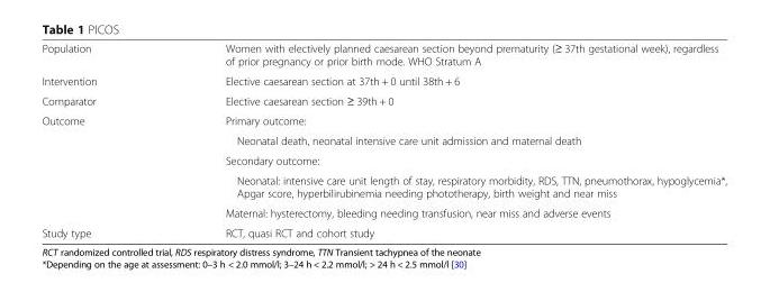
<table><tbody><tr><td>Population</td><td>Women with electively planned caesarean section beyond prematurity (≥ 37th gestational week), regardless of prior pregnancy or prior birth mode. WHO Stratum A</td></tr><tr><td>Intervention</td><td>Elective caesarean section at 37th + 0 until 38th + 6</td></tr><tr><td>Comparator</td><td>Elective caesarean section ≥ 39th + 0</td></tr><tr><td rowspan="5">Outcome</td><td>Primary outcome:</td></tr><tr><td>Neonatal death, neonatal intensive care unit admission and maternal death</td></tr><tr><td>Secondary outcome:</td></tr><tr><td>Neonatal: intensive care unit length of stay, respiratory morbidity, RDS, TTN, pneumothorax, hypoglycemia*, Apgar score, hyperbilirubinemia needing phototherapy, birth weight and near miss</td></tr><tr><td>Maternal: hysterectomy, bleeding needing transfusion, near miss and adverse events</td></tr><tr><td>Study type</td><td>RCT, quasi RCT and cohort study</td></tr></tbody></table>